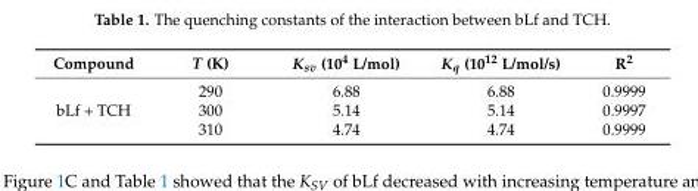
<table><thead><tr><td>Compound</td><td>T (K)</td><td>K<sub>sv</sub> (10<sup>4</sup> L/mol)</td><td>K<sub>q</sub> (10<sup>12</sup> L/mol/s)</td><td>R<sup>2</sup></td></tr></thead><tbody><tr><td></td><td>290</td><td>6.88</td><td>6.88</td><td>0.9999</td></tr><tr><td rowspan="2">bLf + TCH</td><td>300</td><td>5.14</td><td>5.14</td><td>0.9997</td></tr><tr><td>310</td><td>4.74</td><td>4.74</td><td>0.9999</td></tr></tbody></table>